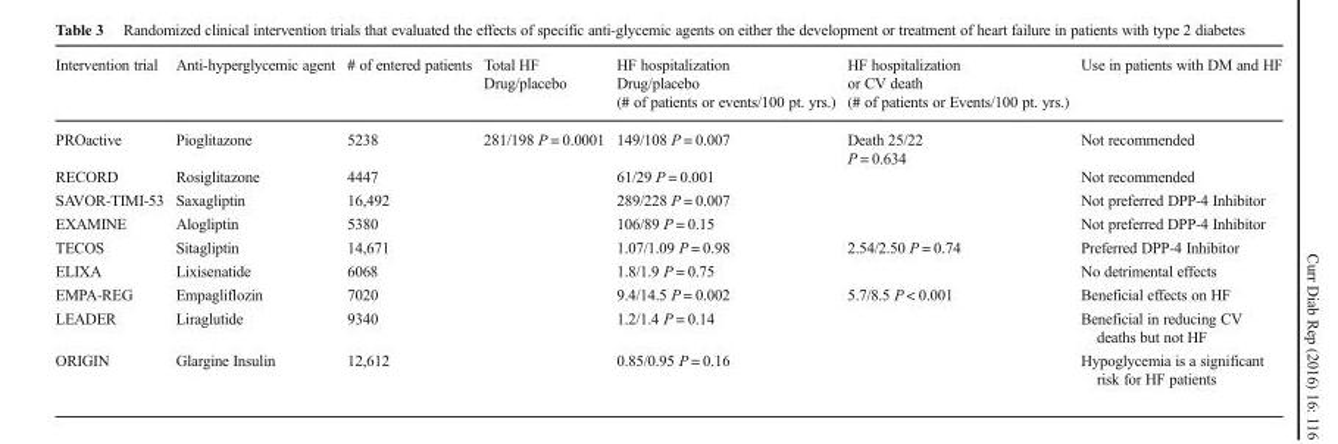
<table><thead><tr><td>Intervention trial</td><td>Anti-hyperglycemic agent</td><td># of entered patients</td><td>Total HF Drug/placebo</td><td>HF hospitalization Drug/placebo (# of patients or events/100 pt. yrs.)</td><td>HF hospitalization or CV death (# of patients or Events/100 pt. yrs.)</td><td>Use in patients with DM and HF</td></tr></thead><tbody><tr><td>PROactive</td><td>Pioglitazone</td><td>5238</td><td>281/198 P = 0.0001</td><td>149/108 P = 0.007</td><td>Death 25/22 P = 0.634</td><td>Not recommended</td></tr><tr><td>RECORD</td><td>Rosiglitazone</td><td>4447</td><td></td><td>61/29 P = 0.001</td><td></td><td>Not recommended</td></tr><tr><td>SAVOR-TIMI-53</td><td>Saxagliptin</td><td>16,492</td><td></td><td>289/228 P = 0.007</td><td></td><td>Not preferred DPP-4 Inhibitor</td></tr><tr><td>EXAMINE</td><td>Alogliptin</td><td>5380</td><td></td><td>106/89 P = 0.15</td><td></td><td>Not preferred DPP-4 Inhibitor</td></tr><tr><td>TECOS</td><td>Sitagliptin</td><td>14,671</td><td></td><td>1.07/1.09 P = 0.98</td><td>2.54/2.50 P = 0.74</td><td>Preferred DPP-4 Inhibitor</td></tr><tr><td>ELIXA</td><td>Lixisenatide</td><td>6068</td><td></td><td>1.8/1.9 P = 0.75</td><td></td><td>No detrimental effects</td></tr><tr><td>EMPA-REG</td><td>Empagliflozin</td><td>7020</td><td></td><td>9.4/14.5 P = 0.002</td><td>5.7/8.5 P &lt; 0.001</td><td>Beneficial effects on HF</td></tr><tr><td>LEADER</td><td>Liraglutide</td><td>9340</td><td></td><td>1.2/1.4 P = 0.14</td><td></td><td>Beneficial in reducing CV deaths but not HF</td></tr><tr><td>ORIGIN</td><td>Glargine Insulin</td><td>12,612</td><td></td><td>0.85/0.95 P = 0.16</td><td></td><td>Hypoglycemia is a significant risk for HF patients</td></tr></tbody></table>